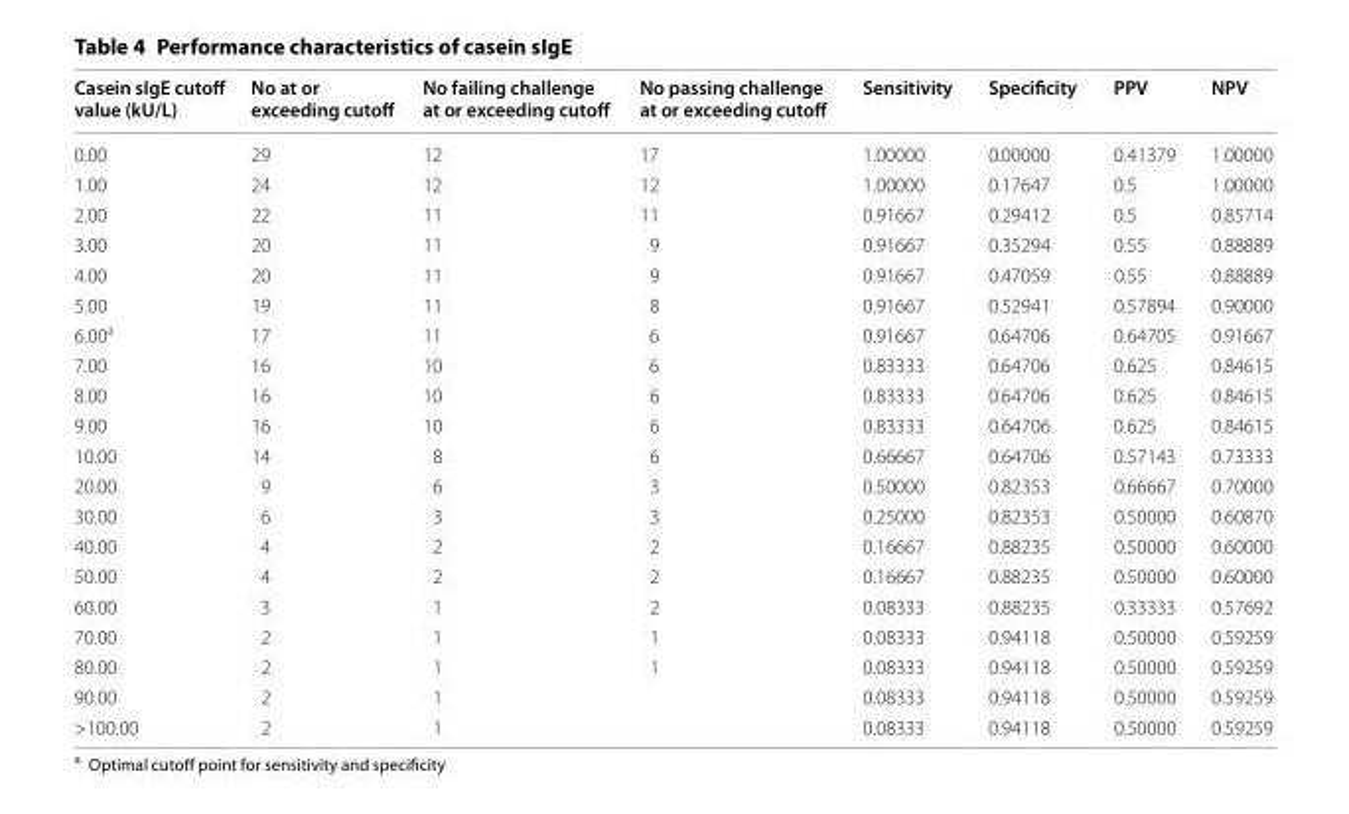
<table><thead><tr><td>Casein sIgE cutoff value (kU/L)</td><td>No at or exceeding cutoff</td><td>No failing challenge at or exceeding cutoff</td><td>No passing challenge at or exceeding cutoff</td><td>Sensitivity</td><td>Specificity</td><td>PPV</td><td>NPV</td></tr></thead><tbody><tr><td>0.00</td><td>29</td><td>12</td><td>17</td><td>1.00000</td><td>0.00000</td><td>0.41379</td><td>1.00000</td></tr><tr><td>1.00</td><td>24</td><td>12</td><td>12</td><td>1.00000</td><td>0.17647</td><td>0.5</td><td>1.00000</td></tr><tr><td>2.00</td><td>22</td><td>11</td><td>11</td><td>0.91667</td><td>0.29412</td><td>0.5</td><td>0.85714</td></tr><tr><td>3.00</td><td>20</td><td>11</td><td>9</td><td>0.91667</td><td>0.35294</td><td>0.55</td><td>0.88889</td></tr><tr><td>4.00</td><td>20</td><td>11</td><td>9</td><td>0.91667</td><td>0.47059</td><td>0.55</td><td>0.88889</td></tr><tr><td>5.00</td><td>19</td><td>11</td><td>8</td><td>0.91667</td><td>0.52941</td><td>0.57894</td><td>0.90000</td></tr><tr><td>6.00<sup>a</sup></td><td>17</td><td>11</td><td>6</td><td>0.91667</td><td>0.64706</td><td>0.64705</td><td>0.91667</td></tr><tr><td>7.00</td><td>16</td><td>10</td><td>6</td><td>0.83333</td><td>0.64706</td><td>0.625</td><td>0.84615</td></tr><tr><td>8.00</td><td>16</td><td>10</td><td>6</td><td>0.83333</td><td>0.64706</td><td>0.625</td><td>0.84615</td></tr><tr><td>9.00</td><td>16</td><td>10</td><td>6</td><td>0.83333</td><td>0.64706</td><td>0.625</td><td>0.84615</td></tr><tr><td>10.00</td><td>14</td><td>8</td><td>6</td><td>0.66667</td><td>0.64706</td><td>0.57143</td><td>0.73333</td></tr><tr><td>20.00</td><td>9</td><td>6</td><td>3</td><td>0.50000</td><td>0.82353</td><td>0.66667</td><td>0.70000</td></tr><tr><td>30.00</td><td>6</td><td>3</td><td>3</td><td>0.25000</td><td>0.82353</td><td>0.50000</td><td>0.60870</td></tr><tr><td>40.00</td><td>4</td><td>2</td><td>2</td><td>0.16667</td><td>0.88235</td><td>0.50000</td><td>0.60000</td></tr><tr><td>50.00</td><td>4</td><td>2</td><td>2</td><td>0.16667</td><td>0.88235</td><td>0.50000</td><td>0.60000</td></tr><tr><td>60.00</td><td>3</td><td>1</td><td>2</td><td>0.08333</td><td>0.88235</td><td>0.33333</td><td>0.57692</td></tr><tr><td>70.00</td><td>2</td><td>1</td><td>1</td><td>0.08333</td><td>0.94118</td><td>0.50000</td><td>0.59259</td></tr><tr><td>80.00</td><td>2</td><td>1</td><td>1</td><td>0.08333</td><td>0.94118</td><td>0.50000</td><td>0.59259</td></tr><tr><td>90.00</td><td>2</td><td>1</td><td></td><td>0.08333</td><td>0.94118</td><td>0.50000</td><td>0.59259</td></tr><tr><td>&gt;100.00</td><td>2</td><td>1</td><td></td><td>0.08333</td><td>0.94118</td><td>0.50000</td><td>0.59259</td></tr></tbody></table>